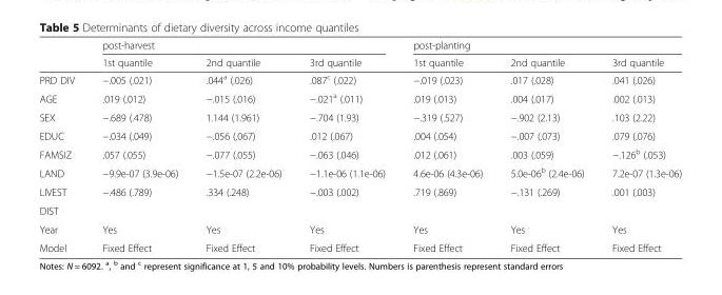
<table><thead><tr><td rowspan="2"></td><td colspan="3">post-harvest</td><td colspan="3">post-planting</td></tr><tr><td>1st quantile</td><td>2nd quantile</td><td>3rd quantile</td><td>1st quantile</td><td>2nd quantile</td><td>3rd quantile</td></tr></thead><tbody><tr><td>PRD DIV</td><td>−.005 (.021)</td><td>.044<sup>a</sup> (.026)</td><td>.087<sup>c</sup> (.022)</td><td>−.019 (.023)</td><td>.017 (.028)</td><td>.041 (.026)</td></tr><tr><td>AGE</td><td>.019 (.012)</td><td>−.015 (.016)</td><td>−.021<sup>a</sup> (.011)</td><td>.019 (.013)</td><td>.004 (.017)</td><td>.002 (.013)</td></tr><tr><td>SEX</td><td>−.689 (.478)</td><td>1.144 (1.961)</td><td>−.704 (1.93)</td><td>−.319 (.527)</td><td>−.902 (2.13)</td><td>.103 (2.22)</td></tr><tr><td>EDUC</td><td>−.034 (.049)</td><td>−.056 (.067)</td><td>.012 (.067)</td><td>.004 (.054)</td><td>−.007 (.073)</td><td>.079 (.076)</td></tr><tr><td>FAMSIZ</td><td>.057 (.055)</td><td>−.077 (.055)</td><td>−.063 (.046)</td><td>.012 (.061)</td><td>.003 (.059)</td><td>−.126<sup>b</sup> (.053)</td></tr><tr><td>LAND</td><td>−9.9e-07 (3.9e-06)</td><td>−1.5e-07 (2.2e-06)</td><td>−1.1e-06 (1.1e-06)</td><td>4.6e-06 (4.3e-06)</td><td>5.0e-06<sup>b</sup> (2.4e-06)</td><td>7.2e-07 (1.3e-06)</td></tr><tr><td>LIVEST</td><td>−.486 (.789)</td><td>.334 (.248)</td><td>−.003 (.002)</td><td>.719 (.869)</td><td>−.131 (.269)</td><td>.001 (.003)</td></tr><tr><td colspan="7">DIST</td></tr><tr><td>Year</td><td>Yes</td><td>Yes</td><td>Yes</td><td>Yes</td><td>Yes</td><td>Yes</td></tr><tr><td>Model</td><td>Fixed Effect</td><td>Fixed Effect</td><td>Fixed Effect</td><td>Fixed Effect</td><td>Fixed Effect</td><td>Fixed Effect</td></tr></tbody></table>